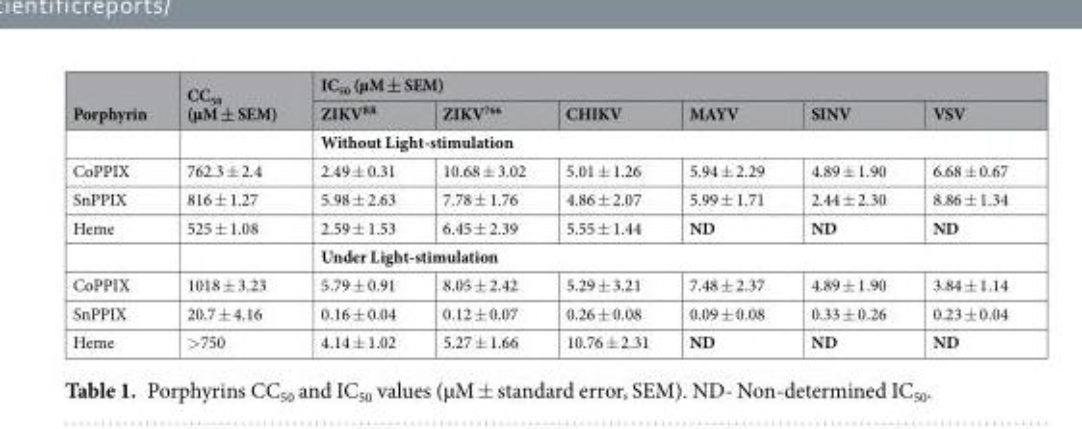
<table><thead><tr><td rowspan="2">Porphyrin</td><td rowspan="2">CC<sub>50</sub> (µM ± SEM)</td><td colspan="6">IC<sub>50</sub> (µM ± SEM)</td></tr><tr><td>ZIKV<sup>BR</sup></td><td>ZIKV<sup>766</sup></td><td>CHIKV</td><td>MAYV</td><td>SINV</td><td>VSV</td></tr></thead><tbody><tr><td></td><td></td><td colspan="6">Without Light-stimulation</td></tr><tr><td>CoPPIX</td><td>762.3 ± 2.4</td><td>2.49 ± 0.31</td><td>10.68 ± 3.02</td><td>5.01 ± 1.26</td><td>5.94 ± 2.29</td><td>4.89 ± 1.90</td><td>6.68 ± 0.67</td></tr><tr><td>SnPPIX</td><td>816 ± 1.27</td><td>5.98 ± 2.63</td><td>7.78 ± 1.76</td><td>4.86 ± 2.07</td><td>5.99 ± 1.71</td><td>2.44 ± 2.30</td><td>8.86 ± 1.34</td></tr><tr><td rowspan="2">Heme</td><td>525 ± 1.08</td><td>2.59 ± 1.53</td><td>6.45 ± 2.39</td><td>5.55 ± 1.44</td><td>ND</td><td>ND</td><td>ND</td></tr><tr><td></td><td colspan="6">Under Light-stimulation</td></tr><tr><td>CoPPIX</td><td>1018 ± 3.23</td><td>5.79 ± 0.91</td><td>8.05 ± 2.42</td><td>5.29 ± 3.21</td><td>7.48 ± 2.37</td><td>4.89 ± 1.90</td><td>3.84 ± 1.14</td></tr><tr><td>SnPPIX</td><td>20.7 ± 4.16</td><td>0.16 ± 0.04</td><td>0.12 ± 0.07</td><td>0.26 ± 0.08</td><td>0.09 ± 0.08</td><td>0.33 ± 0.26</td><td>0.23 ± 0.04</td></tr><tr><td>Heme</td><td>&gt;750</td><td>4.14 ± 1.02</td><td>5.27 ± 1.66</td><td>10.76 ± 2.31</td><td>ND</td><td>ND</td><td>ND</td></tr></tbody></table>